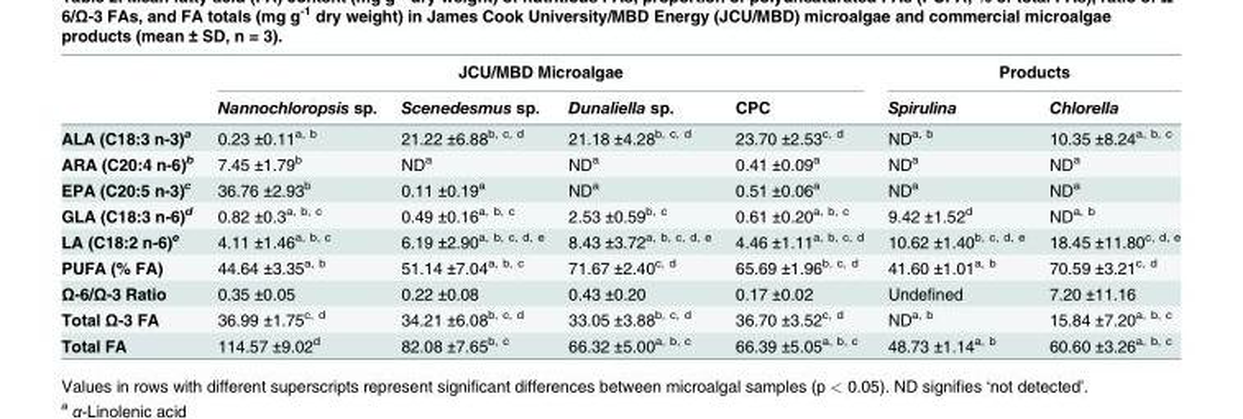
<table><thead><tr><td rowspan="2"></td><td colspan="4">JCU/MBD Microalgae</td><td colspan="2">Products</td></tr><tr><td>Nannochloropsis sp.</td><td>Scenedesmus sp.</td><td>Dunaliella sp.</td><td>CPC</td><td>Spirulina</td><td>Chlorella</td></tr></thead><tbody><tr><td>ALA (C18:3 n-3)<sup>a</sup></td><td>0.23 ±0.11<sup>a</sup>, <sup>b</sup></td><td>21.22 ±6.88<sup>b</sup>, <sup>c</sup>, <sup>d</sup></td><td>21.18 ±4.28<sup>b</sup>, <sup>c</sup>, <sup>d</sup></td><td>23.70 ±2.53<sup>c</sup>, <sup>d</sup></td><td>ND<sup>a</sup>, <sup>b</sup></td><td>10.35 ±8.24<sup>a</sup>, <sup>b</sup>, <sup>c</sup></td></tr><tr><td>ARA (C20:4 n-6)<sup>b</sup></td><td>7.45 ±1.79<sup>b</sup></td><td>ND<sup>a</sup></td><td>ND<sup>a</sup></td><td>0.41 ±0.09<sup>a</sup></td><td>ND<sup>a</sup></td><td>ND<sup>a</sup></td></tr><tr><td>EPA (C20:5 n-3)<sup>c</sup></td><td>36.76 ±2.93<sup>b</sup></td><td>0.11 ±0.19<sup>a</sup></td><td>ND<sup>a</sup></td><td>0.51 ±0.06<sup>a</sup></td><td>ND<sup>a</sup></td><td>ND<sup>a</sup></td></tr><tr><td>GLA (C18:3 n-6)<sup>d</sup></td><td>0.82 ±0.3<sup>a</sup>, <sup>b</sup>, <sup>c</sup></td><td>0.49 ±0.16<sup>a</sup>, <sup>b</sup>, <sup>c</sup></td><td>2.53 ±0.59<sup>b</sup>, <sup>c</sup></td><td>0.61 ±0.20<sup>a</sup>, <sup>b</sup>, <sup>c</sup></td><td>9.42 ±1.52<sup>d</sup></td><td>ND<sup>a</sup>, <sup>b</sup></td></tr><tr><td>LA (C18:2 n-6)<sup>e</sup></td><td>4.11 ±1.46<sup>a</sup>, <sup>b</sup>, <sup>c</sup></td><td>6.19 ±2.90<sup>a</sup>, <sup>b</sup>, <sup>c</sup>, <sup>d</sup>, <sup>e</sup></td><td>8.43 ±3.72<sup>a</sup>, <sup>b</sup>, <sup>c</sup>, <sup>d</sup>, <sup>e</sup></td><td>4.46 ±1.11<sup>a</sup>, <sup>b</sup>, <sup>c</sup>, <sup>d</sup></td><td>10.62 ±1.40<sup>b</sup>, <sup>c</sup>, <sup>d</sup>, <sup>e</sup></td><td>18.45 ±11.80<sup>c</sup>, <sup>d</sup>, <sup>e</sup></td></tr><tr><td>PUFA (% FA)</td><td>44.64 ±3.35<sup>a</sup>, <sup>b</sup></td><td>51.14 ±7.04<sup>a</sup>, <sup>b</sup>, <sup>c</sup></td><td>71.67 ±2.40<sup>c</sup>, <sup>d</sup></td><td>65.69 ±1.96<sup>b</sup>, <sup>c</sup>, <sup>d</sup></td><td>41.60 ±1.01<sup>a</sup>, <sup>b</sup></td><td>70.59 ±3.21<sup>c</sup>, <sup>d</sup></td></tr><tr><td>Ω-6/Ω-3 Ratio</td><td>0.35 ±0.05</td><td>0.22 ±0.08</td><td>0.43 ±0.20</td><td>0.17 ±0.02</td><td>Undefined</td><td>7.20 ±11.16</td></tr><tr><td>Total Ω-3 FA</td><td>36.99 ±1.75<sup>c</sup>, <sup>d</sup></td><td>34.21 ±6.08<sup>b</sup>, <sup>c</sup>, <sup>d</sup></td><td>33.05 ±3.88<sup>b</sup>, <sup>c</sup>, <sup>d</sup></td><td>36.70 ±3.52<sup>c</sup>, <sup>d</sup></td><td>ND<sup>a</sup>, <sup>b</sup></td><td>15.84 ±7.20<sup>a</sup>, <sup>b</sup>, <sup>c</sup></td></tr><tr><td>Total FA</td><td>114.57 ±9.02<sup>d</sup></td><td>82.08 ±7.65<sup>b</sup>, <sup>c</sup></td><td>66.32 ±5.00<sup>a</sup>, <sup>b</sup>, <sup>c</sup></td><td>66.39 ±5.05<sup>a</sup>, <sup>b</sup>, <sup>c</sup></td><td>48.73 ±1.14<sup>a</sup>, <sup>b</sup></td><td>60.60 ±3.26<sup>a</sup>, <sup>b</sup>, <sup>c</sup></td></tr></tbody></table>